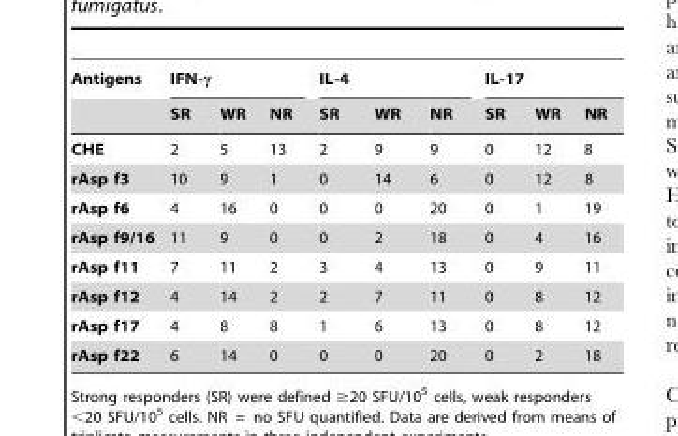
<table><thead><tr><td rowspan="2">Antigens</td><td colspan="3">IFN-γ</td><td colspan="3">IL-4</td><td colspan="3">IL-17</td></tr><tr><td>SR</td><td>WR</td><td>NR</td><td>SR</td><td>WR</td><td>NR</td><td>SR</td><td>WR</td><td>NR</td></tr></thead><tbody><tr><td>CHE</td><td>2</td><td>5</td><td>13</td><td>2</td><td>9</td><td>9</td><td>0</td><td>12</td><td>8</td></tr><tr><td>rAsp f3</td><td>10</td><td>9</td><td>1</td><td>0</td><td>14</td><td>6</td><td>0</td><td>12</td><td>8</td></tr><tr><td>rAsp f6</td><td>4</td><td>16</td><td>0</td><td>0</td><td>0</td><td>20</td><td>0</td><td>1</td><td>19</td></tr><tr><td>rAsp f9/16</td><td>11</td><td>9</td><td>0</td><td>0</td><td>2</td><td>18</td><td>0</td><td>4</td><td>16</td></tr><tr><td>rAsp f11</td><td>7</td><td>11</td><td>2</td><td>3</td><td>4</td><td>13</td><td>0</td><td>9</td><td>11</td></tr><tr><td>rAsp f12</td><td>4</td><td>14</td><td>2</td><td>2</td><td>7</td><td>11</td><td>0</td><td>8</td><td>12</td></tr><tr><td>rAsp f17</td><td>4</td><td>8</td><td>8</td><td>1</td><td>6</td><td>13</td><td>0</td><td>8</td><td>12</td></tr><tr><td>rAsp f22</td><td>6</td><td>14</td><td>0</td><td>0</td><td>0</td><td>20</td><td>0</td><td>2</td><td>18</td></tr></tbody></table>